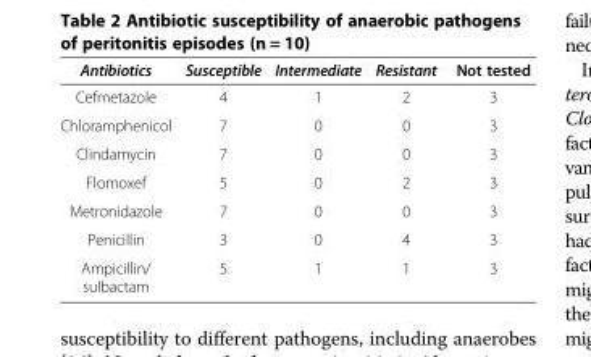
<table><thead><tr><td>Antibiotics</td><td>Susceptible</td><td>Intermediate</td><td>Resistant</td><td>Not tested</td></tr></thead><tbody><tr><td>Cefmetazole</td><td>4</td><td>1</td><td>2</td><td>3</td></tr><tr><td>Chloramphenicol</td><td>7</td><td>0</td><td>0</td><td>3</td></tr><tr><td>Clindamycin</td><td>7</td><td>0</td><td>0</td><td>3</td></tr><tr><td>Flomoxef</td><td>5</td><td>0</td><td>2</td><td>3</td></tr><tr><td>Metronidazole</td><td>7</td><td>0</td><td>0</td><td>3</td></tr><tr><td>Penicillin</td><td>3</td><td>0</td><td>4</td><td>3</td></tr><tr><td>Ampicillin/ sulbactam</td><td>5</td><td>1</td><td>1</td><td>3</td></tr></tbody></table>